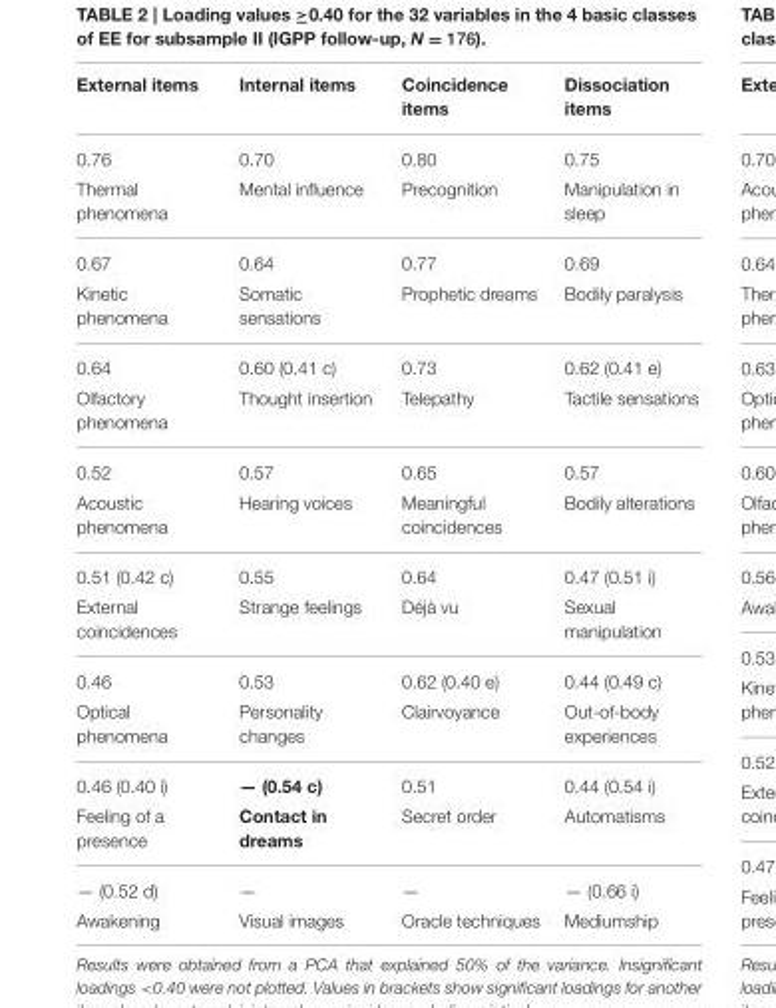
<table><thead><tr><td>External items</td><td>Internal items</td><td>Coincidence items</td><td>Dissociation items</td></tr></thead><tbody><tr><td>0.76</td><td>0.70</td><td>0.80</td><td>0.75</td></tr><tr><td>Thermal phenomena</td><td>Mental influence</td><td>Precognition</td><td>Manipulation in sleep</td></tr><tr><td>0.67</td><td>0.64</td><td>0.77</td><td>0.69</td></tr><tr><td>Kinetic phenomena</td><td>Somatic sensations</td><td>Prophetic dreams</td><td>Bodily paralysis</td></tr><tr><td>0.64</td><td>0.60 (0.41 c)</td><td>0.73</td><td>0.62 (0.41 e)</td></tr><tr><td>Olfactory phenomena</td><td>Thought insertion</td><td>Telepathy</td><td>Tactile sensations</td></tr><tr><td>0.52</td><td>0.57</td><td>0.65</td><td>0.57</td></tr><tr><td>Acoustic phenomena</td><td>Hearing voices</td><td>Meaningful coincidences</td><td>Bodily alterations</td></tr><tr><td>0.51 (0.42 c)</td><td>0.55</td><td>0.64</td><td>0.47 (0.51 i)</td></tr><tr><td>External coincidences</td><td>Strange feelings</td><td>Déjà vu</td><td>Sexual manipulation</td></tr><tr><td>0.46</td><td>0.53</td><td>0.62 (0.40 e)</td><td>0.44 (0.49 c)</td></tr><tr><td>Optical phenomena</td><td>Personality changes</td><td>Clairvoyance</td><td>Out-of-body experiences</td></tr><tr><td>0.46 (0.40 i)</td><td>— (0.54 c)</td><td>0.51</td><td>0.44 (0.54 i)</td></tr><tr><td>Feeling of a presence</td><td>Contact in dreams</td><td>Secret order</td><td>Automatisms</td></tr><tr><td>— (0.52 d)</td><td>—</td><td>—</td><td>— (0.66 i)</td></tr><tr><td>Awakening</td><td>Visual images</td><td>Oracle techniques</td><td>Mediumship</td></tr></tbody></table>